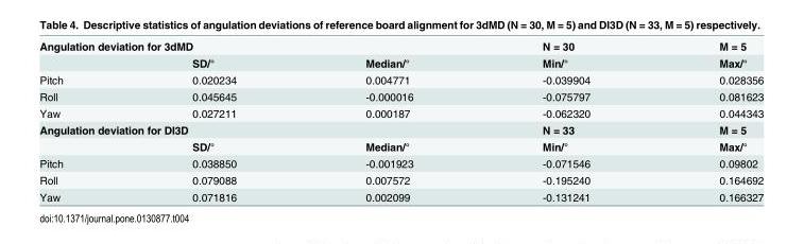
<table><tbody><tr><td colspan="3">Angulation deviation for 3dMD</td><td>N = 30</td><td>M = 5</td></tr><tr><td></td><td>SD/°</td><td>Median/°</td><td>Min/°</td><td>Max/°</td></tr><tr><td>Pitch</td><td>0.020234</td><td>0.004771</td><td>-0.039904</td><td>0.028356</td></tr><tr><td>Roll</td><td>0.045645</td><td>-0.000016</td><td>-0.075797</td><td>0.081623</td></tr><tr><td>Yaw</td><td>0.027211</td><td>0.000187</td><td>-0.062320</td><td>0.044343</td></tr><tr><td colspan="3">Angulation deviation for DI3D</td><td>N = 33</td><td>M = 5</td></tr><tr><td></td><td>SD/°</td><td>Median/°</td><td>Min/°</td><td>Max/°</td></tr><tr><td>Pitch</td><td>0.038850</td><td>-0.001923</td><td>-0.071546</td><td>0.09802</td></tr><tr><td>Roll</td><td>0.079088</td><td>0.007572</td><td>-0.195240</td><td>0.164692</td></tr><tr><td>Yaw</td><td>0.071816</td><td>0.002099</td><td>-0.131241</td><td>0.166327</td></tr></tbody></table>